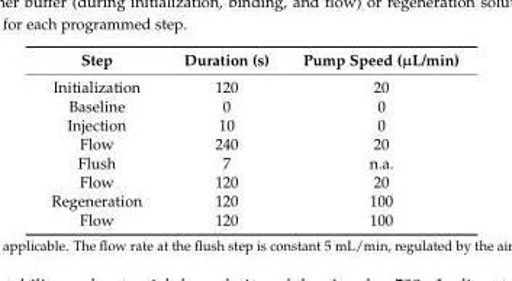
<table><thead><tr><td>Step</td><td>Duration (s)</td><td>Pump Speed (µL/min)</td></tr></thead><tbody><tr><td>Initialization</td><td>120</td><td>20</td></tr><tr><td>Baseline</td><td>0</td><td>0</td></tr><tr><td>Injection</td><td>10</td><td>0</td></tr><tr><td>Flow</td><td>240</td><td>20</td></tr><tr><td>Flush</td><td>7</td><td>n.a.</td></tr><tr><td>Flow</td><td>120</td><td>20</td></tr><tr><td>Regeneration</td><td>120</td><td>100</td></tr><tr><td>Flow</td><td>120</td><td>100</td></tr></tbody></table>